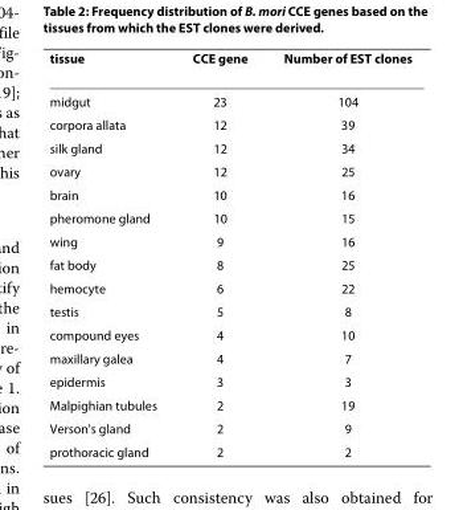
<table><thead><tr><td>tissue</td><td>CCE gene</td><td>Number of EST clones</td></tr></thead><tbody><tr><td>midgut</td><td>23</td><td>104</td></tr><tr><td>corpora allata</td><td>12</td><td>39</td></tr><tr><td>silk gland</td><td>12</td><td>34</td></tr><tr><td>ovary</td><td>12</td><td>25</td></tr><tr><td>brain</td><td>10</td><td>16</td></tr><tr><td>pheromone gland</td><td>10</td><td>15</td></tr><tr><td>wing</td><td>9</td><td>16</td></tr><tr><td>fat body</td><td>8</td><td>25</td></tr><tr><td>hemocyte</td><td>6</td><td>22</td></tr><tr><td>testis</td><td>5</td><td>8</td></tr><tr><td>compound eyes</td><td>4</td><td>10</td></tr><tr><td>maxillary galea</td><td>4</td><td>7</td></tr><tr><td>epidermis</td><td>3</td><td>3</td></tr><tr><td>Malpighian tubules</td><td>2</td><td>19</td></tr><tr><td>Verson&#x27;s gland</td><td>2</td><td>9</td></tr><tr><td>prothoracic gland</td><td>2</td><td>2</td></tr></tbody></table>